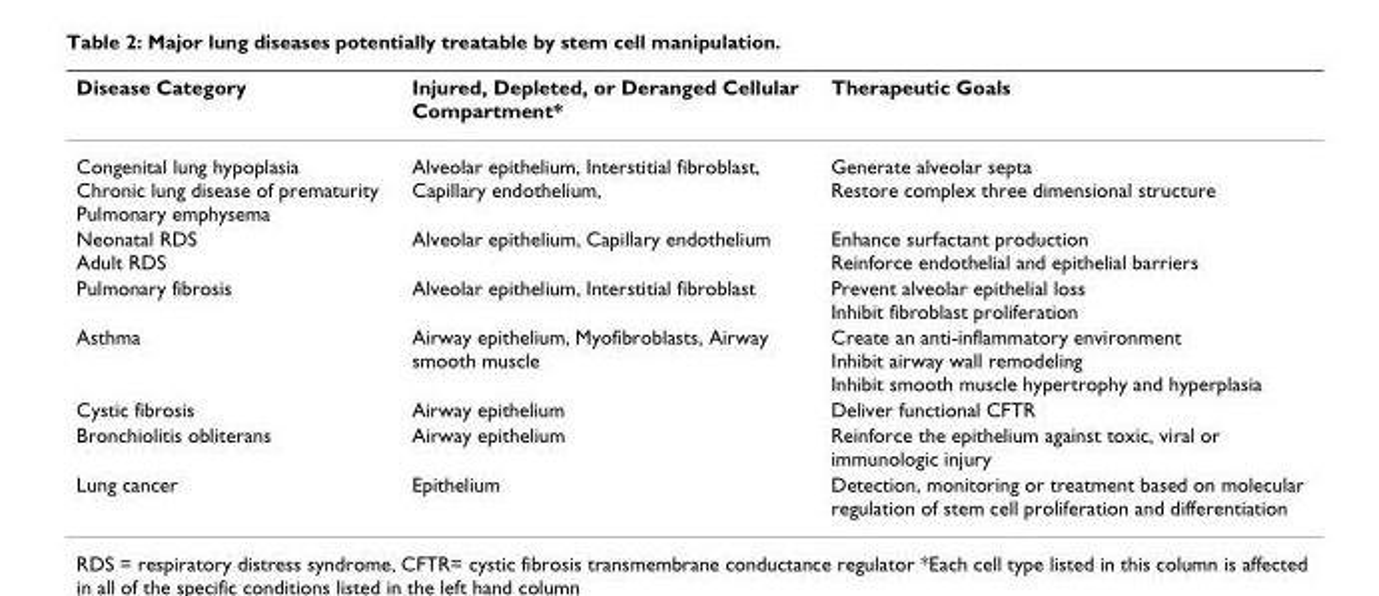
<table><thead><tr><td>Disease Category</td><td>Injured, Depleted, or Deranged Cellular Compartment*</td><td>Therapeutic Goals</td></tr></thead><tbody><tr><td>Congenital lung hypoplasia Chronic lung disease of prematurity Pulmonary emphysema</td><td>Alveolar epithelium, Interstitial fibroblast, Capillary endothelium,</td><td>Generate alveolar septa Restore complex three dimensional structure</td></tr><tr><td>Neonatal RDS Adult RDS</td><td>Alveolar epithelium, Capillary endothelium</td><td>Enhance surfactant production Reinforce endothelial and epithelial barriers</td></tr><tr><td>Pulmonary fibrosis</td><td>Alveolar epithelium, Interstitial fibroblast</td><td>Prevent alveolar epithelial loss Inhibit fibroblast proliferation</td></tr><tr><td>Asthma</td><td>Airway epithelium, Myofibroblasts, Airway smooth muscle</td><td>Create an anti-inflammatory environment Inhibit airway wall remodeling Inhibit smooth muscle hypertrophy and hyperplasia</td></tr><tr><td>Cystic fibrosis</td><td>Airway epithelium</td><td>Deliver functional CFTR</td></tr><tr><td>Bronchiolitis obliterans</td><td>Airway epithelium</td><td>Reinforce the epithelium against toxic, viral or immunologic injury</td></tr><tr><td>Lung cancer</td><td>Epithelium</td><td>Detection, monitoring or treatment based on molecular regulation of stem cell proliferation and differentiation</td></tr></tbody></table>